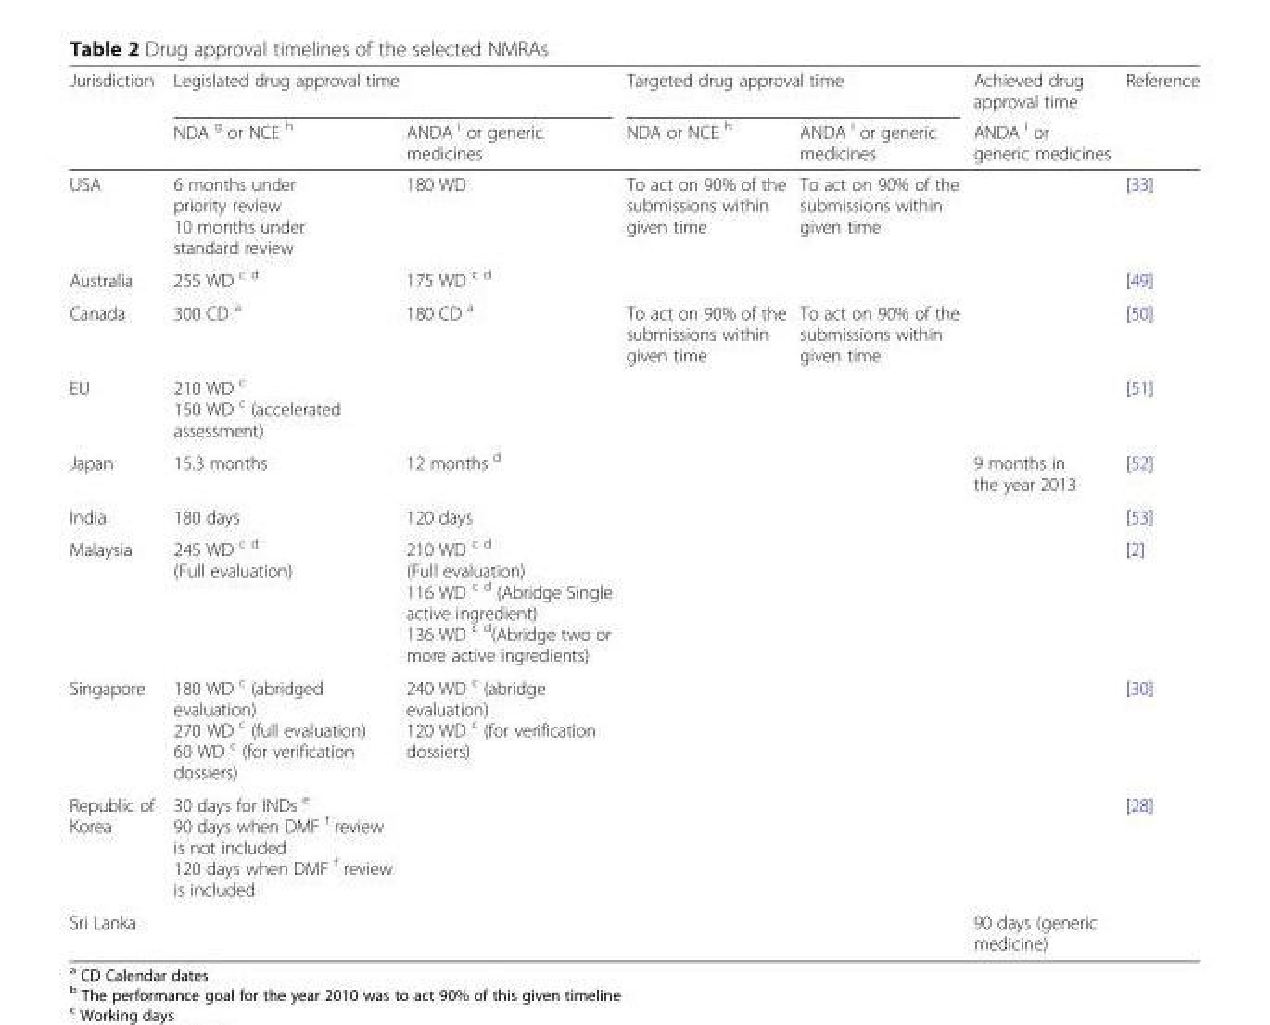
<table><thead><tr><td rowspan="2">Jurisdiction</td><td colspan="2">Legislated drug approval time</td><td colspan="2">Targeted drug approval time</td><td rowspan="2">Achieved drug approval time ANDA <sup>i</sup> or generic medicines</td><td rowspan="2">Reference</td></tr><tr><td>NDA <sup>g</sup> or NCE <sup>h</sup></td><td>ANDA <sup>i</sup> or generic medicines</td><td>NDA or NCE <sup>h</sup></td><td>ANDA <sup>i</sup> or generic medicines</td></tr></thead><tbody><tr><td>USA</td><td>6 months under priority review 10 months under standard review</td><td>180 WD</td><td>To act on 90% of the submissions within given time</td><td>To act on 90% of the submissions within given time</td><td></td><td>[33]</td></tr><tr><td>Australia</td><td>255 WD <sup>c d</sup></td><td>175 WD <sup>c d</sup></td><td></td><td></td><td></td><td>[49]</td></tr><tr><td>Canada</td><td>300 CD <sup>a</sup></td><td>180 CD <sup>a</sup></td><td>To act on 90% of the submissions within given time</td><td>To act on 90% of the submissions within given time</td><td></td><td>[50]</td></tr><tr><td>EU</td><td>210 WD <sup>c</sup> 150 WD <sup>c</sup> (accelerated assessment)</td><td></td><td></td><td></td><td></td><td>[51]</td></tr><tr><td>Japan</td><td>15.3 months</td><td>12 months <sup>d</sup></td><td></td><td></td><td>9 months in the year 2013</td><td>[52]</td></tr><tr><td>India</td><td>180 days</td><td>120 days</td><td></td><td></td><td></td><td>[53]</td></tr><tr><td>Malaysia</td><td>245 WD <sup>c d</sup> (Full evaluation)</td><td>210 WD <sup>c d</sup> (Full evaluation) 116 WD <sup>c d</sup> (Abridge Single active ingredient) 136 WD <sup>c d</sup>(Abridge two or more active ingredients)</td><td></td><td></td><td></td><td>[2]</td></tr><tr><td>Singapore</td><td>180 WD <sup>c</sup> (abridged evaluation) 270 WD <sup>c</sup> (full evaluation) 60 WD <sup>c</sup> (for verification dossiers)</td><td>240 WD <sup>c</sup> (abridge evaluation) 120 WD <sup>c</sup> (for verification dossiers)</td><td></td><td></td><td></td><td>[30]</td></tr><tr><td>Republic of Korea</td><td>30 days for INDs <sup>e</sup> 90 days when DMF <sup>f</sup> review is not included 120 days when DMF <sup>f</sup> review is included</td><td></td><td></td><td></td><td></td><td>[28]</td></tr><tr><td>Sri Lanka</td><td></td><td></td><td></td><td></td><td>90 days (generic medicine)</td><td></td></tr></tbody></table>